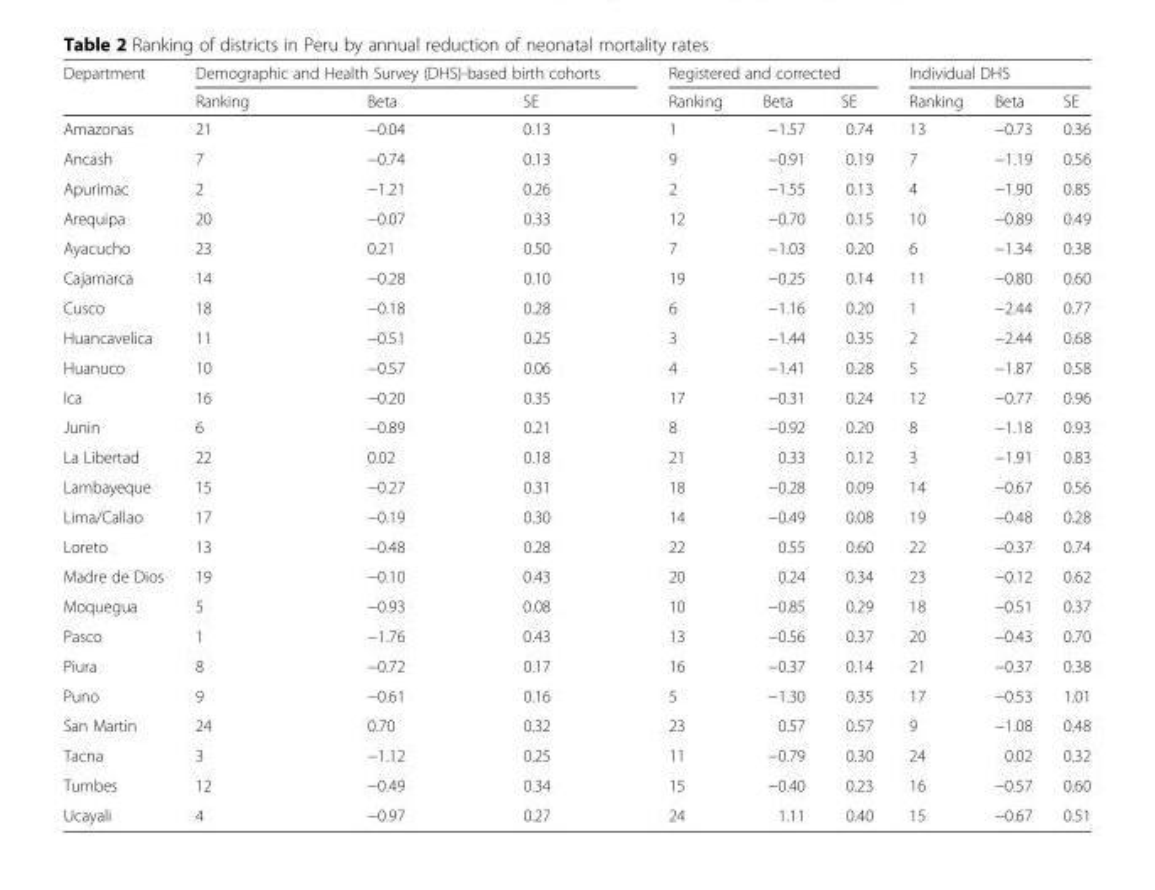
<table><thead><tr><td rowspan="2">Department</td><td colspan="3">Demographic and Health Survey (DHS)-based birth cohorts</td><td colspan="3">Registered and corrected</td><td colspan="3">Individual DHS</td></tr><tr><td>Ranking</td><td>Beta</td><td>SE</td><td>Ranking</td><td>Beta</td><td>SE</td><td>Ranking</td><td>Beta</td><td>SE</td></tr></thead><tbody><tr><td>Amazonas</td><td>21</td><td>−0.04</td><td>0.13</td><td>1</td><td>−1.57</td><td>0.74</td><td>13</td><td>−0.73</td><td>0.36</td></tr><tr><td>Ancash</td><td>7</td><td>−0.74</td><td>0.13</td><td>9</td><td>−0.91</td><td>0.19</td><td>7</td><td>−1.19</td><td>0.56</td></tr><tr><td>Apurimac</td><td>2</td><td>−1.21</td><td>0.26</td><td>2</td><td>−1.55</td><td>0.13</td><td>4</td><td>−1.90</td><td>0.85</td></tr><tr><td>Arequipa</td><td>20</td><td>−0.07</td><td>0.33</td><td>12</td><td>−0.70</td><td>0.15</td><td>10</td><td>−0.89</td><td>0.49</td></tr><tr><td>Ayacucho</td><td>23</td><td>0.21</td><td>0.50</td><td>7</td><td>−1.03</td><td>0.20</td><td>6</td><td>−1.34</td><td>0.38</td></tr><tr><td>Cajamarca</td><td>14</td><td>−0.28</td><td>0.10</td><td>19</td><td>−0.25</td><td>0.14</td><td>11</td><td>−0.80</td><td>0.60</td></tr><tr><td>Cusco</td><td>18</td><td>−0.18</td><td>0.28</td><td>6</td><td>−1.16</td><td>0.20</td><td>1</td><td>−2.44</td><td>0.77</td></tr><tr><td>Huancavelica</td><td>11</td><td>−0.51</td><td>0.25</td><td>3</td><td>−1.44</td><td>0.35</td><td>2</td><td>−2.44</td><td>0.68</td></tr><tr><td>Huanuco</td><td>10</td><td>−0.57</td><td>0.06</td><td>4</td><td>−1.41</td><td>0.28</td><td>5</td><td>−1.87</td><td>0.58</td></tr><tr><td>Ica</td><td>16</td><td>−0.20</td><td>0.35</td><td>17</td><td>−0.31</td><td>0.24</td><td>12</td><td>−0.77</td><td>0.96</td></tr><tr><td>Junin</td><td>6</td><td>−0.89</td><td>0.21</td><td>8</td><td>−0.92</td><td>0.20</td><td>8</td><td>−1.18</td><td>0.93</td></tr><tr><td>La Libertad</td><td>22</td><td>0.02</td><td>0.18</td><td>21</td><td>0.33</td><td>0.12</td><td>3</td><td>−1.91</td><td>0.83</td></tr><tr><td>Lambayeque</td><td>15</td><td>−0.27</td><td>0.31</td><td>18</td><td>−0.28</td><td>0.09</td><td>14</td><td>−0.67</td><td>0.56</td></tr><tr><td>Lima/Callao</td><td>17</td><td>−0.19</td><td>0.30</td><td>14</td><td>−0.49</td><td>0.08</td><td>19</td><td>−0.48</td><td>0.28</td></tr><tr><td>Loreto</td><td>13</td><td>−0.48</td><td>0.28</td><td>22</td><td>0.55</td><td>0.60</td><td>22</td><td>−0.37</td><td>0.74</td></tr><tr><td>Madre de Dios</td><td>19</td><td>−0.10</td><td>0.43</td><td>20</td><td>0.24</td><td>0.34</td><td>23</td><td>−0.12</td><td>0.62</td></tr><tr><td>Moquegua</td><td>5</td><td>−0.93</td><td>0.08</td><td>10</td><td>−0.85</td><td>0.29</td><td>18</td><td>−0.51</td><td>0.37</td></tr><tr><td>Pasco</td><td>1</td><td>−1.76</td><td>0.43</td><td>13</td><td>−0.56</td><td>0.37</td><td>20</td><td>−0.43</td><td>0.70</td></tr><tr><td>Piura</td><td>8</td><td>−0.72</td><td>0.17</td><td>16</td><td>−0.37</td><td>0.14</td><td>21</td><td>−0.37</td><td>0.38</td></tr><tr><td>Puno</td><td>9</td><td>−0.61</td><td>0.16</td><td>5</td><td>−1.30</td><td>0.35</td><td>17</td><td>−0.53</td><td>1.01</td></tr><tr><td>San Martin</td><td>24</td><td>0.70</td><td>0.32</td><td>23</td><td>0.57</td><td>0.57</td><td>9</td><td>−1.08</td><td>0.48</td></tr><tr><td>Tacna</td><td>3</td><td>−1.12</td><td>0.25</td><td>11</td><td>−0.79</td><td>0.30</td><td>24</td><td>0.02</td><td>0.32</td></tr><tr><td>Tumbes</td><td>12</td><td>−0.49</td><td>0.34</td><td>15</td><td>−0.40</td><td>0.23</td><td>16</td><td>−0.57</td><td>0.60</td></tr><tr><td>Ucayali</td><td>4</td><td>−0.97</td><td>0.27</td><td>24</td><td>1.11</td><td>0.40</td><td>15</td><td>−0.67</td><td>0.51</td></tr></tbody></table>